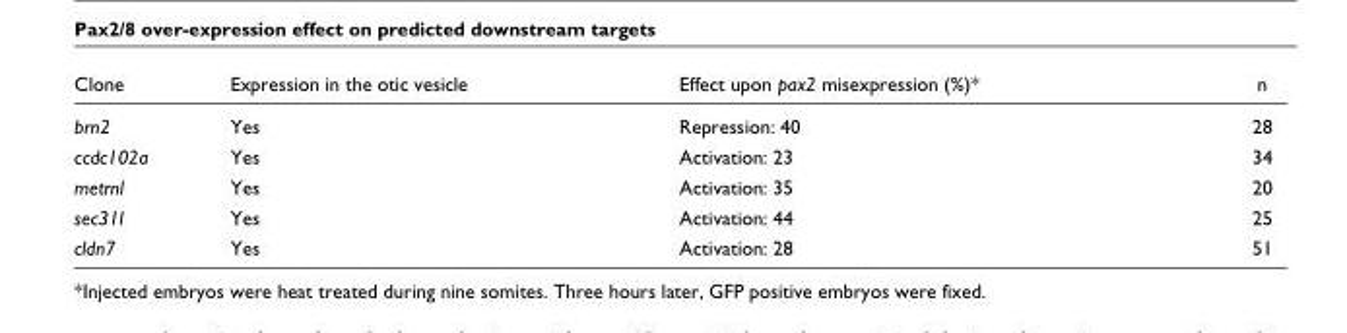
<table><thead><tr><td>Clone</td><td>Expression in the otic vesicle</td><td>Effect upon pax2 misexpression (%)*</td><td>n</td></tr></thead><tbody><tr><td>brn2</td><td>Yes</td><td>Repression: 40</td><td>28</td></tr><tr><td>ccdc102a</td><td>Yes</td><td>Activation: 23</td><td>34</td></tr><tr><td>metrnl</td><td>Yes</td><td>Activation: 35</td><td>20</td></tr><tr><td>sec31l</td><td>Yes</td><td>Activation: 44</td><td>25</td></tr><tr><td>cldn7</td><td>Yes</td><td>Activation: 28</td><td>51</td></tr></tbody></table>